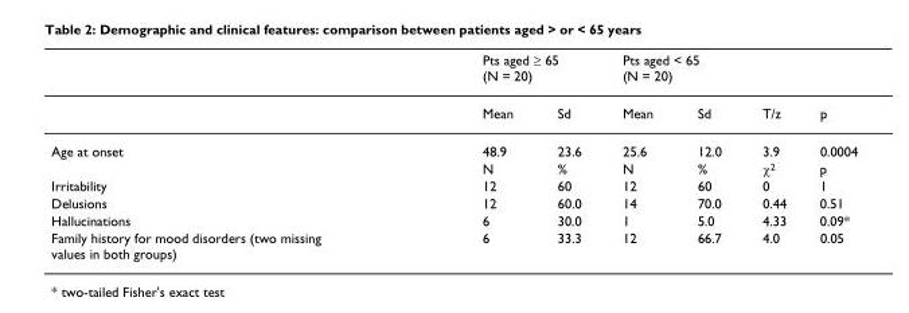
<table><thead><tr><td rowspan="2"></td><td colspan="2">Pts aged ≥ 65 (N = 20)</td><td colspan="2">Pts aged &lt; 65 (N = 20)</td><td rowspan="2">T/z</td><td rowspan="2">p</td></tr><tr><td>Mean</td><td>Sd</td><td>Mean</td><td>Sd</td></tr></thead><tbody><tr><td rowspan="2">Age at onset</td><td>48.9</td><td>23.6</td><td>25.6</td><td>12.0</td><td>3.9</td><td>0.0004</td></tr><tr><td>N</td><td>%</td><td>N</td><td>%</td><td>χ<sup>2</sup></td><td>p</td></tr><tr><td>Irritability</td><td>12</td><td>60</td><td>12</td><td>60</td><td>0</td><td>1</td></tr><tr><td>Delusions</td><td>12</td><td>60.0</td><td>14</td><td>70.0</td><td>0.44</td><td>0.51</td></tr><tr><td>Hallucinations</td><td>6</td><td>30.0</td><td>1</td><td>5.0</td><td>4.33</td><td>0.09*</td></tr><tr><td>Family history for mood disorders (two missing values in both groups)</td><td>6</td><td>33.3</td><td>12</td><td>66.7</td><td>4.0</td><td>0.05</td></tr></tbody></table>